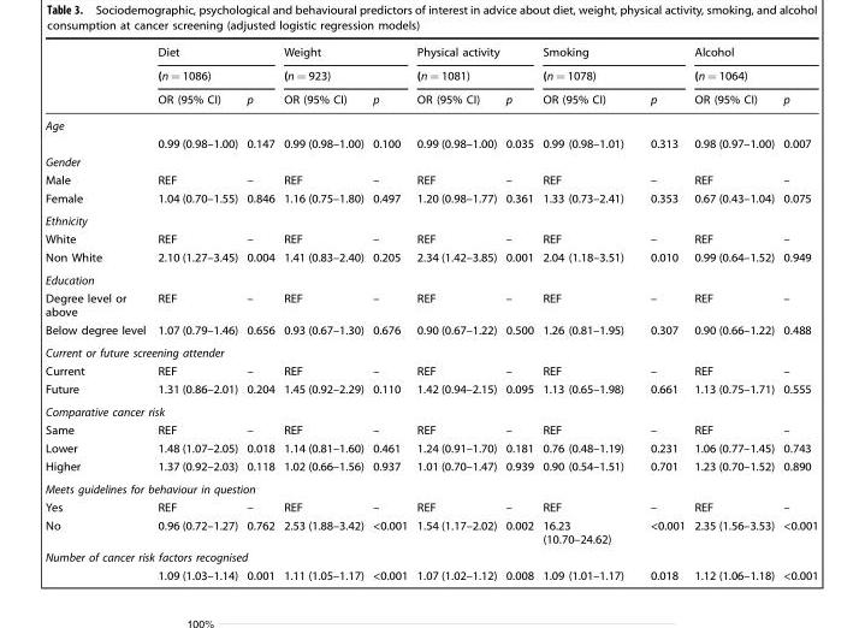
<table><thead><tr><td rowspan="3"></td><td rowspan="2" colspan="2">Diet (n = 1086)</td><td rowspan="2" colspan="2">Weight (n = 923)</td><td rowspan="2" colspan="2">Physical activity (n = 1081)</td><td rowspan="2" colspan="2">Smoking (n = 1078)</td><td rowspan="2" colspan="2">Alcohol (n = 1064)</td></tr><tr></tr><tr><td>OR (95% CI)</td><td>p</td><td>OR (95% CI)</td><td>p</td><td>OR (95% CI)</td><td>p</td><td>OR (95% CI)</td><td>p</td><td>OR (95% CI)</td><td>p</td></tr></thead><tbody><tr><td colspan="11">Age</td></tr><tr><td></td><td>0.99 (0.98–1.00)</td><td>0.147</td><td>0.99 (0.98–1.00)</td><td>0.100</td><td>0.99 (0.98–1.00)</td><td>0.035</td><td>0.99 (0.98–1.01)</td><td>0.313</td><td>0.98 (0.97–1.00)</td><td>0.007</td></tr><tr><td colspan="11">Gender</td></tr><tr><td>Male</td><td>REF</td><td>–</td><td>REF</td><td>–</td><td>REF</td><td>–</td><td>REF</td><td>–</td><td>REF</td><td>–</td></tr><tr><td>Female</td><td>1.04 (0.70–1.55)</td><td>0.846</td><td>1.16 (0.75–1.80)</td><td>0.497</td><td>1.20 (0.98–1.77)</td><td>0.361</td><td>1.33 (0.73–2.41)</td><td>0.353</td><td>0.67 (0.43–1.04)</td><td>0.075</td></tr><tr><td colspan="11">Ethnicity</td></tr><tr><td>White</td><td>REF</td><td>–</td><td>REF</td><td>–</td><td>REF</td><td>–</td><td>REF</td><td>–</td><td>REF</td><td>–</td></tr><tr><td>Non White</td><td>2.10 (1.27–3.45)</td><td>0.004</td><td>1.41 (0.83–2.40)</td><td>0.205</td><td>2.34 (1.42–3.85)</td><td>0.001</td><td>2.04 (1.18–3.51)</td><td>0.010</td><td>0.99 (0.64–1.52)</td><td>0.949</td></tr><tr><td colspan="11">Education</td></tr><tr><td>Degree level or above</td><td>REF</td><td>–</td><td>REF</td><td>–</td><td>REF</td><td>–</td><td>REF</td><td>–</td><td>REF</td><td>–</td></tr><tr><td>Below degree level</td><td>1.07 (0.79–1.46)</td><td>0.656</td><td>0.93 (0.67–1.30)</td><td>0.676</td><td>0.90 (0.67–1.22)</td><td>0.500</td><td>1.26 (0.81–1.95)</td><td>0.307</td><td>0.90 (0.66–1.22)</td><td>0.488</td></tr><tr><td colspan="11">Current or future screening attender</td></tr><tr><td>Current</td><td>REF</td><td>–</td><td>REF</td><td>–</td><td>REF</td><td>–</td><td>REF</td><td>–</td><td>REF</td><td>–</td></tr><tr><td>Future</td><td>1.31 (0.86–2.01)</td><td>0.204</td><td>1.45 (0.92–2.29)</td><td>0.110</td><td>1.42 (0.94–2.15)</td><td>0.095</td><td>1.13 (0.65–1.98)</td><td>0.661</td><td>1.13 (0.75–1.71)</td><td>0.555</td></tr><tr><td colspan="11">Comparative cancer risk</td></tr><tr><td>Same</td><td>REF</td><td>–</td><td>REF</td><td>–</td><td>REF</td><td>–</td><td>REF</td><td>–</td><td>REF</td><td>–</td></tr><tr><td>Lower</td><td>1.48 (1.07–2.05)</td><td>0.018</td><td>1.14 (0.81–1.60)</td><td>0.461</td><td>1.24 (0.91–1.70)</td><td>0.181</td><td>0.76 (0.48–1.19)</td><td>0.231</td><td>1.06 (0.77–1.45)</td><td>0.743</td></tr><tr><td>Higher</td><td>1.37 (0.92–2.03)</td><td>0.118</td><td>1.02 (0.66–1.56)</td><td>0.937</td><td>1.01 (0.70–1.47)</td><td>0.939</td><td>0.90 (0.54–1.51)</td><td>0.701</td><td>1.23 (0.70–1.52)</td><td>0.890</td></tr><tr><td colspan="11">Meets guidelines for behaviour in question</td></tr><tr><td>Yes</td><td>REF</td><td>–</td><td>REF</td><td>–</td><td>REF</td><td>–</td><td>REF</td><td>–</td><td>REF</td><td>–</td></tr><tr><td>No</td><td>0.96 (0.72–1.27)</td><td>0.762</td><td>2.53 (1.88–3.42)</td><td>&lt;0.001</td><td>1.54 (1.17–2.02)</td><td>0.002</td><td>16.23 (10.70–24.62)</td><td>&lt;0.001</td><td>2.35 (1.56–3.53)</td><td>&lt;0.001</td></tr><tr><td colspan="11">Number of cancer risk factors recognised</td></tr><tr><td></td><td>1.09 (1.03–1.14)</td><td>0.001</td><td>1.11 (1.05–1.17)</td><td>&lt;0.001</td><td>1.07 (1.02–1.12)</td><td>0.008</td><td>1.09 (1.01–1.17)</td><td>0.018</td><td>1.12 (1.06–1.18)</td><td>&lt;0.001</td></tr></tbody></table>